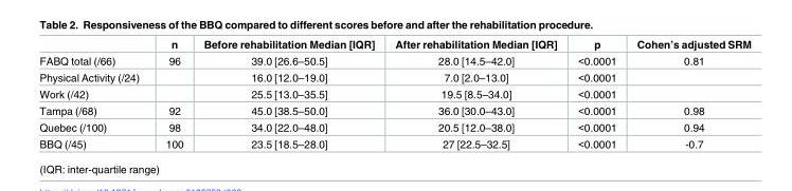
<table><thead><tr><td></td><td>n</td><td>Before rehabilitation Median [IQR]</td><td>After rehabilitation Median [IQR]</td><td>p</td><td>Cohen’s adjusted SRM</td></tr></thead><tbody><tr><td>FABQ total (/66)</td><td>96</td><td>39.0 [26.6–50.5]</td><td>28.0 [14.5–42.0]</td><td>&lt;0.0001</td><td>0.81</td></tr><tr><td>Physical Activity (/24)</td><td></td><td>16.0 [12.0–19.0]</td><td>7.0 [2.0–13.0]</td><td>&lt;0.0001</td><td></td></tr><tr><td>Work (/42)</td><td></td><td>25.5 [13.0–35.5]</td><td>19.5 [8.5–34.0]</td><td>&lt;0.0001</td><td></td></tr><tr><td>Tampa (/68)</td><td>92</td><td>45.0 [38.5–50.0]</td><td>36.0 [30.0–43.0]</td><td>&lt;0.0001</td><td>0.98</td></tr><tr><td>Quebec (/100)</td><td>98</td><td>34.0 [22.0–48.0]</td><td>20.5 [12.0–38.0]</td><td>&lt;0.0001</td><td>0.94</td></tr><tr><td>BBQ (/45)</td><td>100</td><td>23.5 [18.5–28.0]</td><td>27 [22.5–32.5]</td><td>&lt;0.0001</td><td>-0.7</td></tr></tbody></table>